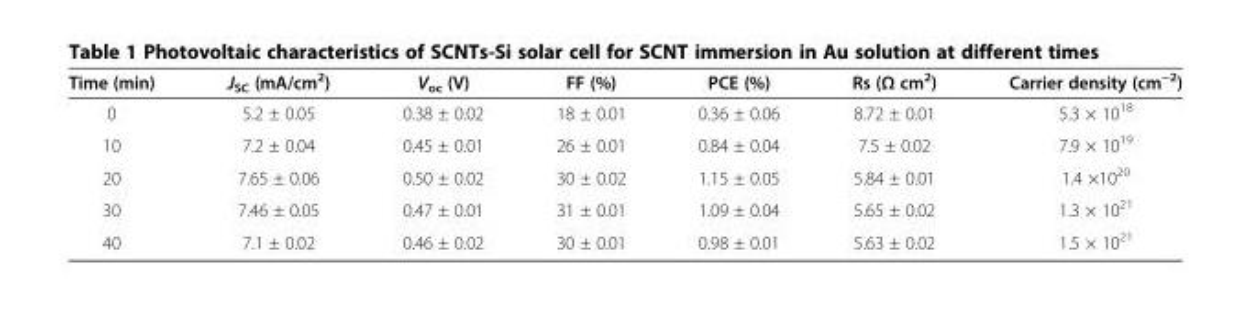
<table><thead><tr><td>Time (min)</td><td>J<sub>SC</sub> (mA/cm<sup>2</sup>)</td><td>V<sub>oc</sub> (V)</td><td>FF (%)</td><td>PCE (%)</td><td>Rs (Ω cm<sup>2</sup>)</td><td>Carrier density (cm<sup>−2</sup>)</td></tr></thead><tbody><tr><td>0</td><td>5.2 ± 0.05</td><td>0.38 ± 0.02</td><td>18 ± 0.01</td><td>0.36 ± 0.06</td><td>8.72 ± 0.01</td><td>5.3 × 10<sup>18</sup></td></tr><tr><td>10</td><td>7.2 ± 0.04</td><td>0.45 ± 0.01</td><td>26 ± 0.01</td><td>0.84 ± 0.04</td><td>7.5 ± 0.02</td><td>7.9 × 10<sup>19</sup></td></tr><tr><td>20</td><td>7.65 ± 0.06</td><td>0.50 ± 0.02</td><td>30 ± 0.02</td><td>1.15 ± 0.05</td><td>5.84 ± 0.01</td><td>1.4 ×10<sup>20</sup></td></tr><tr><td>30</td><td>7.46 ± 0.05</td><td>0.47 ± 0.01</td><td>31 ± 0.01</td><td>1.09 ± 0.04</td><td>5.65 ± 0.02</td><td>1.3 × 10<sup>21</sup></td></tr><tr><td>40</td><td>7.1 ± 0.02</td><td>0.46 ± 0.02</td><td>30 ± 0.01</td><td>0.98 ± 0.01</td><td>5.63 ± 0.02</td><td>1.5 × 10<sup>21</sup></td></tr></tbody></table>